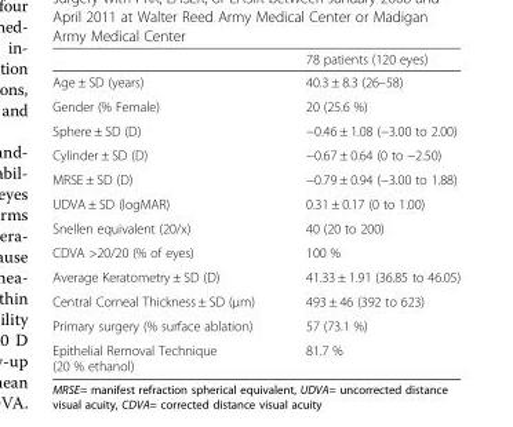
<table><thead><tr><td></td><td>78 patients (120 eyes)</td></tr></thead><tbody><tr><td>Age ± SD (years)</td><td>40.3 ± 8.3 (26–58)</td></tr><tr><td>Gender (% Female)</td><td>20 (25.6 %)</td></tr><tr><td>Sphere ± SD (D)</td><td>−0.46 ± 1.08 (−3.00 to 2.00)</td></tr><tr><td>Cylinder ± SD (D)</td><td>−0.67 ± 0.64 (0 to −2.50)</td></tr><tr><td>MRSE ± SD (D)</td><td>−0.79 ± 0.94 (−3.00 to 1.88)</td></tr><tr><td>UDVA ± SD (logMAR)</td><td>0.31 ± 0.17 (0 to 1.00)</td></tr><tr><td>Snellen equivalent (20/x)</td><td>40 (20 to 200)</td></tr><tr><td>CDVA &gt;20/20 (% of eyes)</td><td>100 %</td></tr><tr><td>Average Keratometry ± SD (D)</td><td>41.33 ± 1.91 (36.85 to 46.05)</td></tr><tr><td>Central Corneal Thickness ± SD (μm)</td><td>493 ± 46 (392 to 623)</td></tr><tr><td>Primary surgery (% surface ablation)</td><td>57 (73.1 %)</td></tr><tr><td>Epithelial Removal Technique (20 % ethanol)</td><td>81.7 %</td></tr></tbody></table>